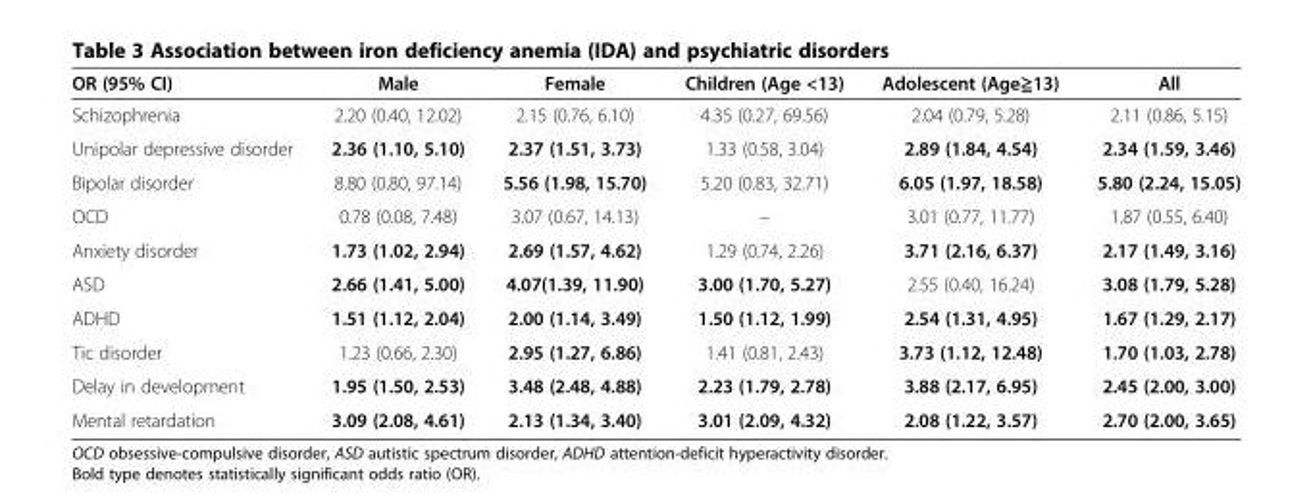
<table><thead><tr><td>OR (95% CI)</td><td>Male</td><td>Female</td><td>Children (Age &lt;13)</td><td>Adolescent (Age≧13)</td><td>All</td></tr></thead><tbody><tr><td>Schizophrenia</td><td>2.20 (0.40, 12.02)</td><td>2.15 (0.76, 6.10)</td><td>4.35 (0.27, 69.56)</td><td>2.04 (0.79, 5.28)</td><td>2.11 (0.86, 5.15)</td></tr><tr><td>Unipolar depressive disorder</td><td>2.36 (1.10, 5.10)</td><td>2.37 (1.51, 3.73)</td><td>1.33 (0.58, 3.04)</td><td>2.89 (1.84, 4.54)</td><td>2.34 (1.59, 3.46)</td></tr><tr><td>Bipolar disorder</td><td>8.80 (0.80, 97.14)</td><td>5.56 (1.98, 15.70)</td><td>5.20 (0.83, 32.71)</td><td>6.05 (1.97, 18.58)</td><td>5.80 (2.24, 15.05)</td></tr><tr><td>OCD</td><td>0.78 (0.08, 7.48)</td><td>3.07 (0.67, 14.13)</td><td>–</td><td>3.01 (0.77, 11.77)</td><td>1.87 (0.55, 6.40)</td></tr><tr><td>Anxiety disorder</td><td>1.73 (1.02, 2.94)</td><td>2.69 (1.57, 4.62)</td><td>1.29 (0.74, 2.26)</td><td>3.71 (2.16, 6.37)</td><td>2.17 (1.49, 3.16)</td></tr><tr><td>ASD</td><td>2.66 (1.41, 5.00)</td><td>4.07(1.39, 11.90)</td><td>3.00 (1.70, 5.27)</td><td>2.55 (0.40, 16.24)</td><td>3.08 (1.79, 5.28)</td></tr><tr><td>ADHD</td><td>1.51 (1.12, 2.04)</td><td>2.00 (1.14, 3.49)</td><td>1.50 (1.12, 1.99)</td><td>2.54 (1.31, 4.95)</td><td>1.67 (1.29, 2.17)</td></tr><tr><td>Tic disorder</td><td>1.23 (0.66, 2.30)</td><td>2.95 (1.27, 6.86)</td><td>1.41 (0.81, 2.43)</td><td>3.73 (1.12, 12.48)</td><td>1.70 (1.03, 2.78)</td></tr><tr><td>Delay in development</td><td>1.95 (1.50, 2.53)</td><td>3.48 (2.48, 4.88)</td><td>2.23 (1.79, 2.78)</td><td>3.88 (2.17, 6.95)</td><td>2.45 (2.00, 3.00)</td></tr><tr><td>Mental retardation</td><td>3.09 (2.08, 4.61)</td><td>2.13 (1.34, 3.40)</td><td>3.01 (2.09, 4.32)</td><td>2.08 (1.22, 3.57)</td><td>2.70 (2.00, 3.65)</td></tr></tbody></table>